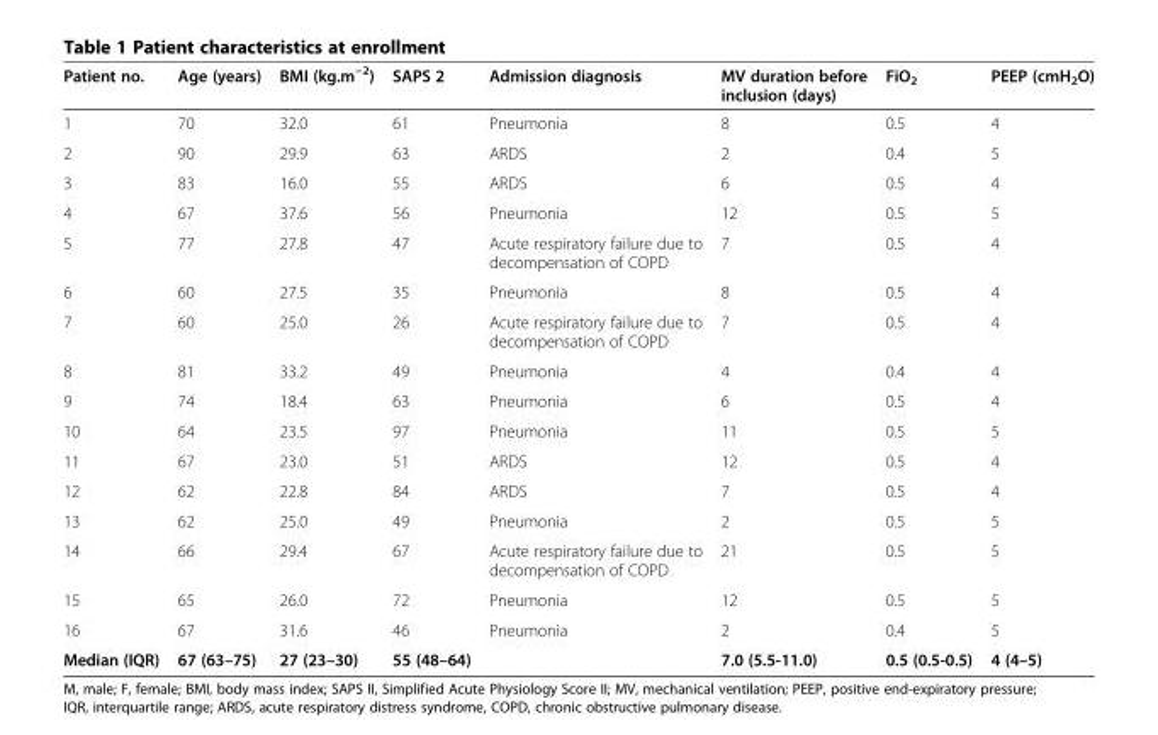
<table><thead><tr><td>Patient no.</td><td>Age (years)</td><td>BMI (kg.m<sup>−2</sup>)</td><td>SAPS 2</td><td>Admission diagnosis</td><td>MV duration before inclusion (days)</td><td>FiO<sub>2</sub></td><td>PEEP (cmH<sub>2</sub>O)</td></tr></thead><tbody><tr><td>1</td><td>70</td><td>32.0</td><td>61</td><td>Pneumonia</td><td>8</td><td>0.5</td><td>4</td></tr><tr><td>2</td><td>90</td><td>29.9</td><td>63</td><td>ARDS</td><td>2</td><td>0.4</td><td>5</td></tr><tr><td>3</td><td>83</td><td>16.0</td><td>55</td><td>ARDS</td><td>6</td><td>0.5</td><td>4</td></tr><tr><td>4</td><td>67</td><td>37.6</td><td>56</td><td>Pneumonia</td><td>12</td><td>0.5</td><td>5</td></tr><tr><td>5</td><td>77</td><td>27.8</td><td>47</td><td>Acute respiratory failure due to decompensation of COPD</td><td>7</td><td>0.5</td><td>4</td></tr><tr><td>6</td><td>60</td><td>27.5</td><td>35</td><td>Pneumonia</td><td>8</td><td>0.5</td><td>4</td></tr><tr><td>7</td><td>60</td><td>25.0</td><td>26</td><td>Acute respiratory failure due to decompensation of COPD</td><td>7</td><td>0.5</td><td>4</td></tr><tr><td>8</td><td>81</td><td>33.2</td><td>49</td><td>Pneumonia</td><td>4</td><td>0.4</td><td>4</td></tr><tr><td>9</td><td>74</td><td>18.4</td><td>63</td><td>Pneumonia</td><td>6</td><td>0.5</td><td>4</td></tr><tr><td>10</td><td>64</td><td>23.5</td><td>97</td><td>Pneumonia</td><td>11</td><td>0.5</td><td>5</td></tr><tr><td>11</td><td>67</td><td>23.0</td><td>51</td><td>ARDS</td><td>12</td><td>0.5</td><td>4</td></tr><tr><td>12</td><td>62</td><td>22.8</td><td>84</td><td>ARDS</td><td>7</td><td>0.5</td><td>4</td></tr><tr><td>13</td><td>62</td><td>25.0</td><td>49</td><td>Pneumonia</td><td>2</td><td>0.5</td><td>5</td></tr><tr><td>14</td><td>66</td><td>29.4</td><td>67</td><td>Acute respiratory failure due to decompensation of COPD</td><td>21</td><td>0.5</td><td>5</td></tr><tr><td>15</td><td>65</td><td>26.0</td><td>72</td><td>Pneumonia</td><td>12</td><td>0.5</td><td>5</td></tr><tr><td>16</td><td>67</td><td>31.6</td><td>46</td><td>Pneumonia</td><td>2</td><td>0.4</td><td>5</td></tr><tr><td>Median (IQR)</td><td>67 (63–75)</td><td>27 (23–30)</td><td>55 (48–64)</td><td></td><td>7.0 (5.5-11.0)</td><td>0.5 (0.5-0.5)</td><td>4 (4–5)</td></tr></tbody></table>